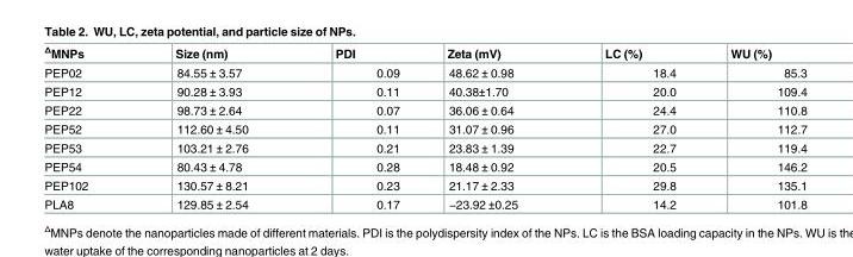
<table><thead><tr><td><sup>Δ</sup>MNPs</td><td>Size (nm)</td><td>PDI</td><td>Zeta (mV)</td><td>LC (%)</td><td>WU (%)</td></tr></thead><tbody><tr><td>PEP02</td><td>84.55 ± 3.57</td><td>0.09</td><td>48.62 ± 0.98</td><td>18.4</td><td>85.3</td></tr><tr><td>PEP12</td><td>90.28 ± 3.93</td><td>0.11</td><td>40.38±1.70</td><td>20.0</td><td>109.4</td></tr><tr><td>PEP22</td><td>98.73 ± 2.64</td><td>0.07</td><td>36.06 ± 0.64</td><td>24.4</td><td>110.8</td></tr><tr><td>PEP52</td><td>112.60 ± 4.50</td><td>0.11</td><td>31.07 ± 0.96</td><td>27.0</td><td>112.7</td></tr><tr><td>PEP53</td><td>103.21 ± 2.76</td><td>0.21</td><td>23.83 ± 1.39</td><td>22.7</td><td>119.4</td></tr><tr><td>PEP54</td><td>80.43 ± 4.78</td><td>0.28</td><td>18.48 ± 0.92</td><td>20.5</td><td>146.2</td></tr><tr><td>PEP102</td><td>130.57 ± 8.21</td><td>0.23</td><td>21.17 ± 2.33</td><td>29.8</td><td>135.1</td></tr><tr><td>PLA8</td><td>129.85 ± 2.54</td><td>0.17</td><td>−23.92 ±0.25</td><td>14.2</td><td>101.8</td></tr></tbody></table>